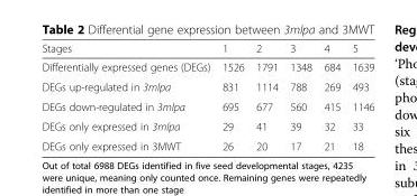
<table><thead><tr><td>Stages</td><td>1</td><td>2</td><td>3</td><td>4</td><td>5</td></tr></thead><tbody><tr><td>Differentially expressed genes (DEGs)</td><td>1526</td><td>1791</td><td>1348</td><td>684</td><td>1639</td></tr><tr><td>DEGs up-regulated in 3mlpa</td><td>831</td><td>1114</td><td>788</td><td>269</td><td>493</td></tr><tr><td>DEGs down-regulated in 3mlpa</td><td>695</td><td>677</td><td>560</td><td>415</td><td>1146</td></tr><tr><td>DEGs only expressed in 3mlpa</td><td>29</td><td>41</td><td>39</td><td>32</td><td>33</td></tr><tr><td>DEGs only expressed in 3MWT</td><td>26</td><td>20</td><td>17</td><td>21</td><td>18</td></tr></tbody></table>